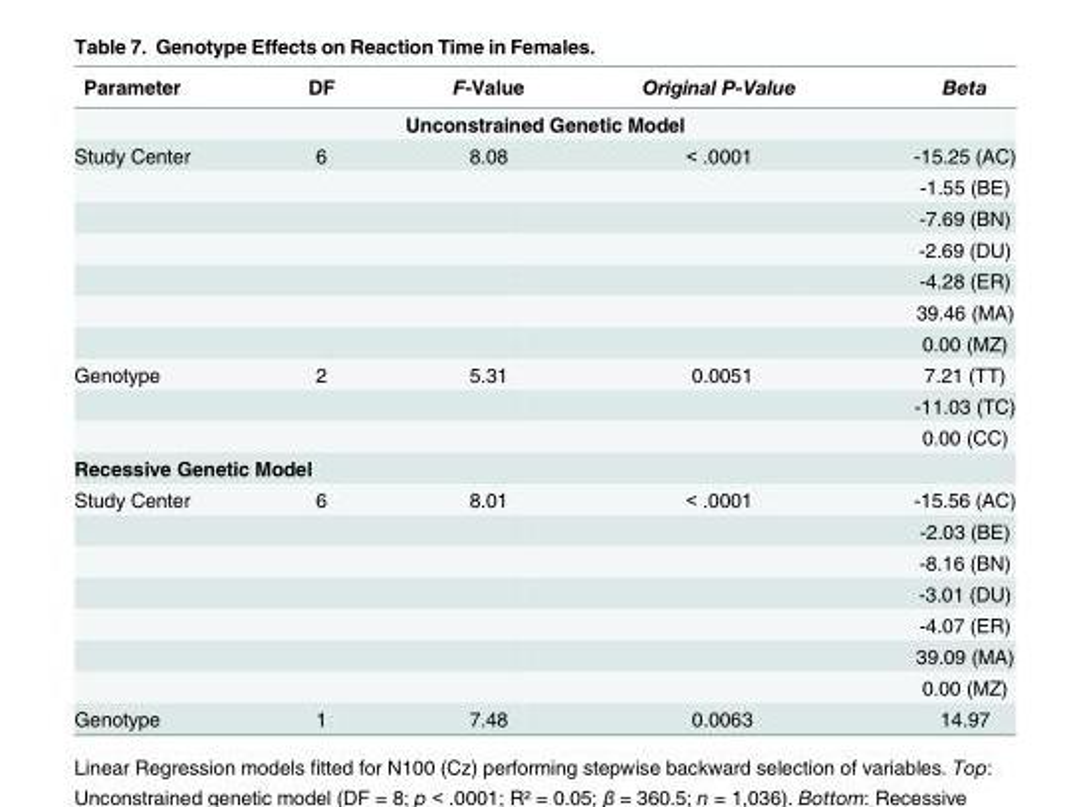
<table><thead><tr><td>Parameter</td><td>DF</td><td>F-Value</td><td>Original P-Value</td><td>Beta</td></tr></thead><tbody><tr><td colspan="5">Unconstrained Genetic Model</td></tr><tr><td rowspan="7">Study Center</td><td>6</td><td>8.08</td><td>&lt; .0001</td><td>-15.25 (AC)</td></tr><tr><td></td><td></td><td></td><td>-1.55 (BE)</td></tr><tr><td></td><td></td><td></td><td>-7.69 (BN)</td></tr><tr><td></td><td></td><td></td><td>-2.69 (DU)</td></tr><tr><td></td><td></td><td></td><td>-4.28 (ER)</td></tr><tr><td></td><td></td><td></td><td>39.46 (MA)</td></tr><tr><td></td><td></td><td></td><td>0.00 (MZ)</td></tr><tr><td rowspan="3">Genotype</td><td>2</td><td>5.31</td><td>0.0051</td><td>7.21 (TT)</td></tr><tr><td></td><td></td><td></td><td>-11.03 (TC)</td></tr><tr><td></td><td></td><td></td><td>0.00 (CC)</td></tr><tr><td colspan="5">Recessive Genetic Model</td></tr><tr><td rowspan="7">Study Center</td><td>6</td><td>8.01</td><td>&lt; .0001</td><td>-15.56 (AC)</td></tr><tr><td></td><td></td><td></td><td>-2.03 (BE)</td></tr><tr><td></td><td></td><td></td><td>-8.16 (BN)</td></tr><tr><td></td><td></td><td></td><td>-3.01 (DU)</td></tr><tr><td></td><td></td><td></td><td>-4.07 (ER)</td></tr><tr><td></td><td></td><td></td><td>39.09 (MA)</td></tr><tr><td></td><td></td><td></td><td>0.00 (MZ)</td></tr><tr><td>Genotype</td><td>1</td><td>7.48</td><td>0.0063</td><td>14.97</td></tr></tbody></table>